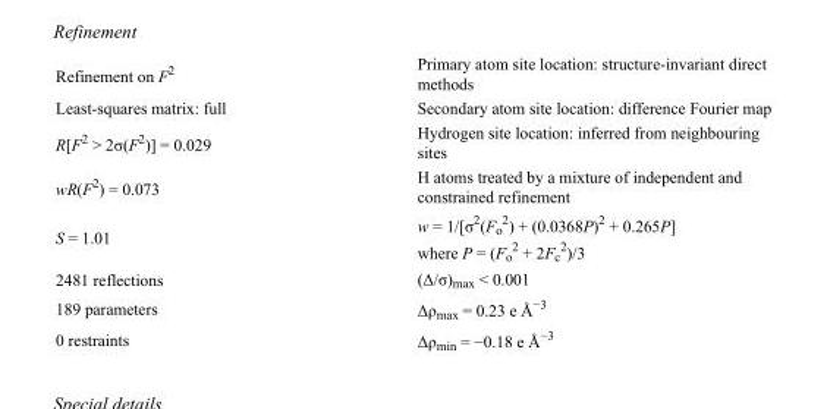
<table><tbody><tr><td>Refinement on F<sup>2</sup></td><td>Primary atom site location: structure-invariant direct methods</td></tr><tr><td>Least-squares matrix: full</td><td>Secondary atom site location: difference Fourier map</td></tr><tr><td>R[F<sup>2</sup> &gt; 2σ(F<sup>2</sup>)] = 0.029</td><td>Hydrogen site location: inferred from neighbouring sites</td></tr><tr><td>wR(F<sup>2</sup>) = 0.073</td><td>H atoms treated by a mixture of independent and constrained refinement</td></tr><tr><td>S = 1.01</td><td>w = 1/[σ<sup>2</sup>(F<sub>o</sub> <sup>2</sup>) + (0.0368P)<sup>2</sup> + 0.265P] where P = (F<sub>o</sub> <sup>2</sup> + 2F<sub>c</sub> <sup>2</sup>)/3</td></tr><tr><td>2481 reflections</td><td>(Δ/σ)<sub>max</sub> &lt; 0.001</td></tr><tr><td>189 parameters</td><td>Δρ<sub>max</sub> = 0.23 e Å<sup>−3</sup></td></tr><tr><td>0 restraints</td><td>Δρ<sub>min</sub> = −0.18 e Å<sup>−3</sup></td></tr></tbody></table>